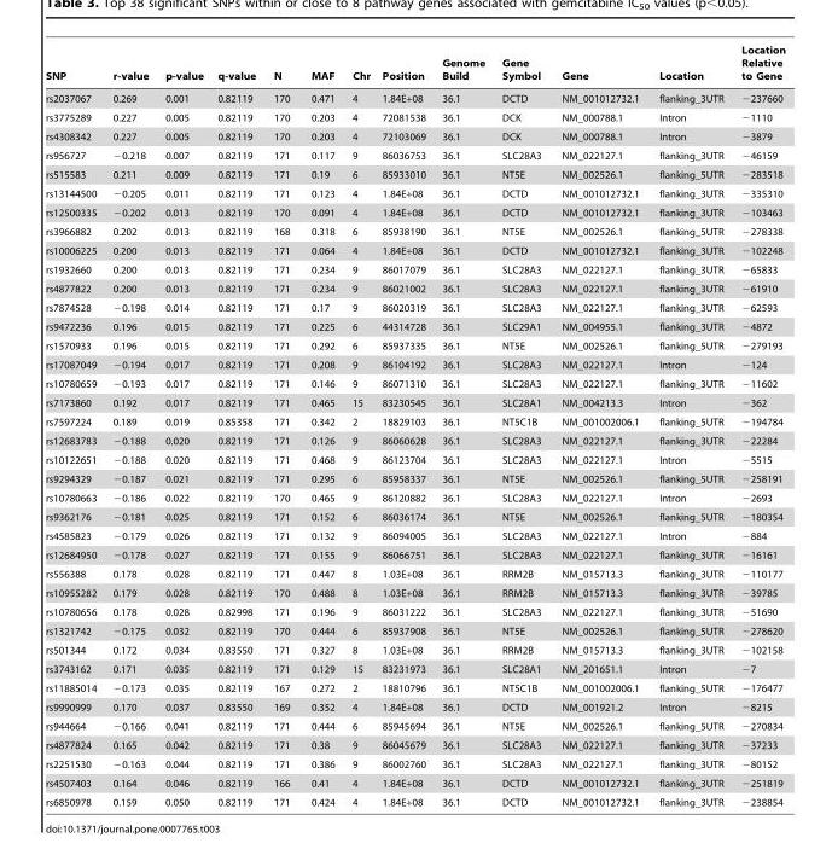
<table><thead><tr><td>SNP</td><td>r-value</td><td>p-value</td><td>q-value</td><td>N</td><td>MAF</td><td>Chr</td><td>Position</td><td>Genome Build</td><td>Gene Symbol</td><td>Gene</td><td>Location</td><td>Location Relative to Gene</td></tr></thead><tbody><tr><td>rs2037067</td><td>0.269</td><td>0.001</td><td>0.82119</td><td>170</td><td>0.471</td><td>4</td><td>1.84E+08</td><td>36.1</td><td>DCTD</td><td>NM_001012732.1</td><td>flanking_3UTR</td><td>−237660</td></tr><tr><td>rs3775289</td><td>0.227</td><td>0.005</td><td>0.82119</td><td>170</td><td>0.203</td><td>4</td><td>72081538</td><td>36.1</td><td>DCK</td><td>NM_000788.1</td><td>Intron</td><td>−1110</td></tr><tr><td>rs4308342</td><td>0.227</td><td>0.005</td><td>0.82119</td><td>170</td><td>0.203</td><td>4</td><td>72103069</td><td>36.1</td><td>DCK</td><td>NM_000788.1</td><td>Intron</td><td>−3879</td></tr><tr><td>rs956727</td><td>−0.218</td><td>0.007</td><td>0.82119</td><td>171</td><td>0.117</td><td>9</td><td>86036753</td><td>36.1</td><td>SLC28A3</td><td>NM_022127.1</td><td>flanking_3UTR</td><td>−46159</td></tr><tr><td>rs515583</td><td>0.211</td><td>0.009</td><td>0.82119</td><td>171</td><td>0.19</td><td>6</td><td>85933010</td><td>36.1</td><td>NT5E</td><td>NM_002526.1</td><td>flanking_5UTR</td><td>−283518</td></tr><tr><td>rs13144500</td><td>−0.205</td><td>0.011</td><td>0.82119</td><td>171</td><td>0.123</td><td>4</td><td>1.84E+08</td><td>36.1</td><td>DCTD</td><td>NM_001012732.1</td><td>flanking_3UTR</td><td>−335310</td></tr><tr><td>rs12500335</td><td>−0.202</td><td>0.013</td><td>0.82119</td><td>170</td><td>0.091</td><td>4</td><td>1.84E+08</td><td>36.1</td><td>DCTD</td><td>NM_001012732.1</td><td>flanking_3UTR</td><td>−103463</td></tr><tr><td>rs3966882</td><td>0.202</td><td>0.013</td><td>0.82119</td><td>168</td><td>0.318</td><td>6</td><td>85938190</td><td>36.1</td><td>NT5E</td><td>NM_002526.1</td><td>flanking_5UTR</td><td>−278338</td></tr><tr><td>rs10006225</td><td>0.200</td><td>0.013</td><td>0.82119</td><td>171</td><td>0.064</td><td>4</td><td>1.84E+08</td><td>36.1</td><td>DCTD</td><td>NM_001012732.1</td><td>flanking_3UTR</td><td>−102248</td></tr><tr><td>rs1932660</td><td>0.200</td><td>0.013</td><td>0.82119</td><td>171</td><td>0.234</td><td>9</td><td>86017079</td><td>36.1</td><td>SLC28A3</td><td>NM_022127.1</td><td>flanking_3UTR</td><td>−65833</td></tr><tr><td>rs4877822</td><td>0.200</td><td>0.013</td><td>0.82119</td><td>171</td><td>0.234</td><td>9</td><td>86021002</td><td>36.1</td><td>SLC28A3</td><td>NM_022127.1</td><td>flanking_3UTR</td><td>−61910</td></tr><tr><td>rs7874528</td><td>−0.198</td><td>0.014</td><td>0.82119</td><td>171</td><td>0.17</td><td>9</td><td>86020319</td><td>36.1</td><td>SLC28A3</td><td>NM_022127.1</td><td>flanking_3UTR</td><td>−62593</td></tr><tr><td>rs9472236</td><td>0.196</td><td>0.015</td><td>0.82119</td><td>171</td><td>0.225</td><td>6</td><td>44314728</td><td>36.1</td><td>SLC29A1</td><td>NM_004955.1</td><td>flanking_3UTR</td><td>−4872</td></tr><tr><td>rs1570933</td><td>0.196</td><td>0.015</td><td>0.82119</td><td>171</td><td>0.292</td><td>6</td><td>85937335</td><td>36.1</td><td>NT5E</td><td>NM_002526.1</td><td>flanking_5UTR</td><td>−279193</td></tr><tr><td>rs17087049</td><td>−0.194</td><td>0.017</td><td>0.82119</td><td>171</td><td>0.208</td><td>9</td><td>86104192</td><td>36.1</td><td>SLC28A3</td><td>NM_022127.1</td><td>Intron</td><td>−124</td></tr><tr><td>rs10780659</td><td>−0.193</td><td>0.017</td><td>0.82119</td><td>171</td><td>0.146</td><td>9</td><td>86071310</td><td>36.1</td><td>SLC28A3</td><td>NM_022127.1</td><td>flanking_3UTR</td><td>−11602</td></tr><tr><td>rs7173860</td><td>0.192</td><td>0.017</td><td>0.82119</td><td>171</td><td>0.465</td><td>15</td><td>83230545</td><td>36.1</td><td>SLC28A1</td><td>NM_004213.3</td><td>Intron</td><td>−362</td></tr><tr><td>rs7597224</td><td>0.189</td><td>0.019</td><td>0.85358</td><td>171</td><td>0.342</td><td>2</td><td>18829103</td><td>36.1</td><td>NT5C1B</td><td>NM_001002006.1</td><td>flanking_5UTR</td><td>−194784</td></tr><tr><td>rs12683783</td><td>−0.188</td><td>0.020</td><td>0.82119</td><td>171</td><td>0.126</td><td>9</td><td>86060628</td><td>36.1</td><td>SLC28A3</td><td>NM_022127.1</td><td>flanking_3UTR</td><td>−22284</td></tr><tr><td>rs10122651</td><td>−0.188</td><td>0.020</td><td>0.82119</td><td>171</td><td>0.468</td><td>9</td><td>86123704</td><td>36.1</td><td>SLC28A3</td><td>NM_022127.1</td><td>Intron</td><td>−5515</td></tr><tr><td>rs9294329</td><td>−0.187</td><td>0.021</td><td>0.82119</td><td>171</td><td>0.295</td><td>6</td><td>85958337</td><td>36.1</td><td>NT5E</td><td>NM_002526.1</td><td>flanking_5UTR</td><td>−258191</td></tr><tr><td>rs10780663</td><td>−0.186</td><td>0.022</td><td>0.82119</td><td>170</td><td>0.465</td><td>9</td><td>86120882</td><td>36.1</td><td>SLC28A3</td><td>NM_022127.1</td><td>Intron</td><td>−2693</td></tr><tr><td>rs9362176</td><td>−0.181</td><td>0.025</td><td>0.82119</td><td>171</td><td>0.152</td><td>6</td><td>86036174</td><td>36.1</td><td>NT5E</td><td>NM_002526.1</td><td>flanking_5UTR</td><td>−180354</td></tr><tr><td>rs4585823</td><td>−0.179</td><td>0.026</td><td>0.82119</td><td>171</td><td>0.132</td><td>9</td><td>86094005</td><td>36.1</td><td>SLC28A3</td><td>NM_022127.1</td><td>Intron</td><td>−884</td></tr><tr><td>rs12684950</td><td>−0.178</td><td>0.027</td><td>0.82119</td><td>171</td><td>0.155</td><td>9</td><td>86066751</td><td>36.1</td><td>SLC28A3</td><td>NM_022127.1</td><td>flanking_3UTR</td><td>−16161</td></tr><tr><td>rs556388</td><td>0.178</td><td>0.028</td><td>0.82119</td><td>171</td><td>0.447</td><td>8</td><td>1.03E+08</td><td>36.1</td><td>RRM2B</td><td>NM_015713.3</td><td>flanking_3UTR</td><td>−110177</td></tr><tr><td>rs10955282</td><td>0.179</td><td>0.028</td><td>0.82119</td><td>170</td><td>0.488</td><td>8</td><td>1.03E+08</td><td>36.1</td><td>RRM2B</td><td>NM_015713.3</td><td>flanking_3UTR</td><td>−39785</td></tr><tr><td>rs10780656</td><td>0.178</td><td>0.028</td><td>0.82998</td><td>171</td><td>0.196</td><td>9</td><td>86031222</td><td>36.1</td><td>SLC28A3</td><td>NM_022127.1</td><td>flanking_3UTR</td><td>−51690</td></tr><tr><td>rs1321742</td><td>−0.175</td><td>0.032</td><td>0.82119</td><td>170</td><td>0.444</td><td>6</td><td>85937908</td><td>36.1</td><td>NT5E</td><td>NM_002526.1</td><td>flanking_5UTR</td><td>−278620</td></tr><tr><td>rs501344</td><td>0.172</td><td>0.034</td><td>0.83550</td><td>171</td><td>0.327</td><td>8</td><td>1.03E+08</td><td>36.1</td><td>RRM2B</td><td>NM_015713.3</td><td>flanking_3UTR</td><td>−102158</td></tr><tr><td>rs3743162</td><td>0.171</td><td>0.035</td><td>0.82119</td><td>171</td><td>0.129</td><td>15</td><td>83231973</td><td>36.1</td><td>SLC28A1</td><td>NM_201651.1</td><td>Intron</td><td>−7</td></tr><tr><td>rs11885014</td><td>−0.173</td><td>0.035</td><td>0.82119</td><td>167</td><td>0.272</td><td>2</td><td>18810796</td><td>36.1</td><td>NT5C1B</td><td>NM_001002006.1</td><td>flanking_5UTR</td><td>−176477</td></tr><tr><td>rs9990999</td><td>0.170</td><td>0.037</td><td>0.83550</td><td>169</td><td>0.352</td><td>4</td><td>1.84E+08</td><td>36.1</td><td>DCTD</td><td>NM_001921.2</td><td>Intron</td><td>−8215</td></tr><tr><td>rs944664</td><td>−0.166</td><td>0.041</td><td>0.82119</td><td>171</td><td>0.444</td><td>6</td><td>85945694</td><td>36.1</td><td>NT5E</td><td>NM_002526.1</td><td>flanking_5UTR</td><td>−270834</td></tr><tr><td>rs4877824</td><td>0.165</td><td>0.042</td><td>0.82119</td><td>171</td><td>0.38</td><td>9</td><td>86045679</td><td>36.1</td><td>SLC28A3</td><td>NM_022127.1</td><td>flanking_3UTR</td><td>−37233</td></tr><tr><td>rs2251530</td><td>−0.163</td><td>0.044</td><td>0.82119</td><td>171</td><td>0.386</td><td>9</td><td>86002760</td><td>36.1</td><td>SLC28A3</td><td>NM_022127.1</td><td>flanking_3UTR</td><td>−80152</td></tr><tr><td>rs4507403</td><td>0.164</td><td>0.046</td><td>0.82119</td><td>166</td><td>0.41</td><td>4</td><td>1.84E+08</td><td>36.1</td><td>DCTD</td><td>NM_001012732.1</td><td>flanking_3UTR</td><td>−251819</td></tr><tr><td>rs6850978</td><td>0.159</td><td>0.050</td><td>0.82119</td><td>171</td><td>0.424</td><td>4</td><td>1.84E+08</td><td>36.1</td><td>DCTD</td><td>NM_001012732.1</td><td>flanking_3UTR</td><td>−238854</td></tr></tbody></table>